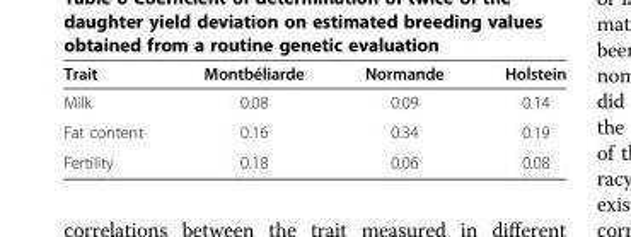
<table><thead><tr><td>Trait</td><td>Montbéliarde</td><td>Normande</td><td>Holstein</td></tr></thead><tbody><tr><td>Milk</td><td>0.08</td><td>0.09</td><td>0.14</td></tr><tr><td>Fat content</td><td>0.16</td><td>0.34</td><td>0.19</td></tr><tr><td>Fertility</td><td>0.18</td><td>0.06</td><td>0.08</td></tr></tbody></table>